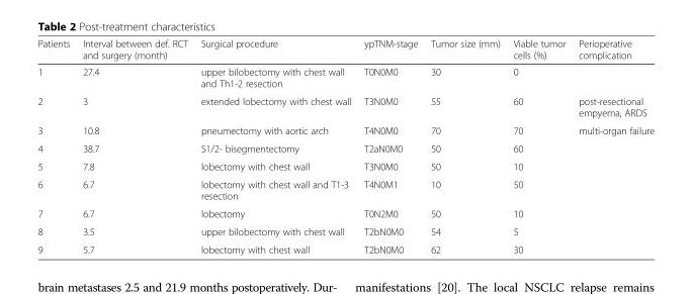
<table><thead><tr><td>Patients</td><td>Interval between def. RCT and surgery (month)</td><td>Surgical procedure</td><td>ypTNM-stage</td><td>Tumor size (mm)</td><td>Viable tumor cells (%)</td><td>Perioperative complication</td></tr></thead><tbody><tr><td>1</td><td>27.4</td><td>upper bilobectomy with chest wall and Th1-2 resection</td><td>T0N0M0</td><td>30</td><td>0</td><td></td></tr><tr><td>2</td><td>3</td><td>extended lobectomy with chest wall</td><td>T3N0M0</td><td>55</td><td>60</td><td>post-resectional empyema, ARDS</td></tr><tr><td>3</td><td>10.8</td><td>pneumectomy with aortic arch</td><td>T4N0M0</td><td>70</td><td>70</td><td>multi-organ failure</td></tr><tr><td>4</td><td>38.7</td><td>S1/2- bisegmentectomy</td><td>T2aN0M0</td><td>50</td><td>60</td><td></td></tr><tr><td>5</td><td>7.8</td><td>lobectomy with chest wall</td><td>T3N0M0</td><td>50</td><td>10</td><td></td></tr><tr><td>6</td><td>6.7</td><td>lobectomy with chest wall and T1-3 resection</td><td>T4N0M1</td><td>10</td><td>50</td><td></td></tr><tr><td>7</td><td>6.7</td><td>lobectomy</td><td>T0N2M0</td><td>50</td><td>10</td><td></td></tr><tr><td>8</td><td>3.5</td><td>upper bilobectomy with chest wall</td><td>T2bN0M0</td><td>54</td><td>5</td><td></td></tr><tr><td>9</td><td>5.7</td><td>lobectomy with chest wall</td><td>T2bN0M0</td><td>62</td><td>30</td><td></td></tr></tbody></table>